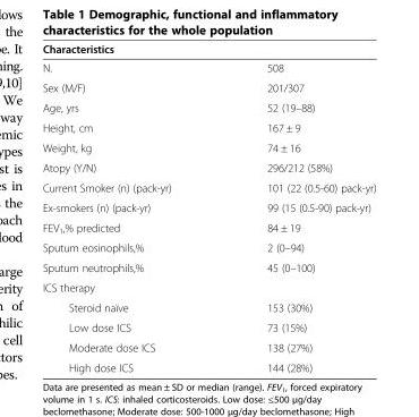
<table><thead><tr><td>Characteristics</td><td></td></tr></thead><tbody><tr><td>N.</td><td>508</td></tr><tr><td>Sex (M/F)</td><td>201/307</td></tr><tr><td>Age, yrs</td><td>52 (19–88)</td></tr><tr><td>Height, cm</td><td>167 ± 9</td></tr><tr><td>Weight, kg</td><td>74 ± 16</td></tr><tr><td>Atopy (Y/N)</td><td>296/212 (58%)</td></tr><tr><td>Current Smoker (n) (pack-yr)</td><td>101 (22 (0.5-60) pack-yr)</td></tr><tr><td>Ex-smokers (n) (pack-yr)</td><td>99 (15 (0.5-90) pack-yr)</td></tr><tr><td>FEV<sub>1</sub>,% predicted</td><td>84 ± 19</td></tr><tr><td>Sputum eosinophils,%</td><td>2 (0–94)</td></tr><tr><td>Sputum neutrophils,%</td><td>45 (0–100)</td></tr><tr><td colspan="2">ICS therapy</td></tr><tr><td>Steroid naïve</td><td>153 (30%)</td></tr><tr><td>Low dose ICS</td><td>73 (15%)</td></tr><tr><td>Moderate dose ICS</td><td>138 (27%)</td></tr><tr><td>High dose ICS</td><td>144 (28%)</td></tr></tbody></table>